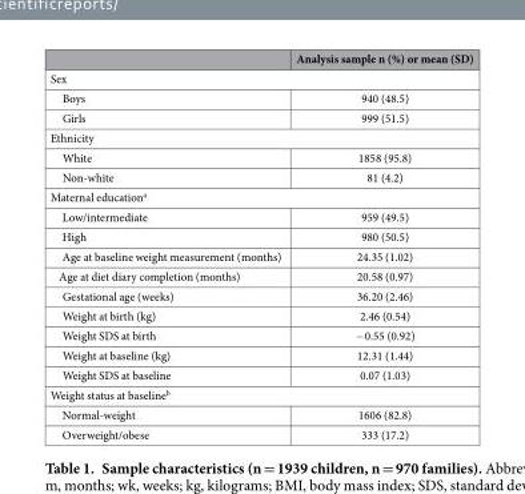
<table><thead><tr><td></td><td>Analysis sample n (%) or mean (SD)</td></tr></thead><tbody><tr><td colspan="2">Sex</td></tr><tr><td>Boys</td><td>940 (48.5)</td></tr><tr><td>Girls</td><td>999 (51.5)</td></tr><tr><td colspan="2">Ethnicity</td></tr><tr><td>White</td><td>1858 (95.8)</td></tr><tr><td>Non-white</td><td>81 (4.2)</td></tr><tr><td colspan="2">Maternal education<sup>a</sup></td></tr><tr><td>Low/intermediate</td><td>959 (49.5)</td></tr><tr><td>High</td><td>980 (50.5)</td></tr><tr><td>Age at baseline weight measurement (months)</td><td>24.35 (1.02)</td></tr><tr><td>Age at diet diary completion (months)</td><td>20.58 (0.97)</td></tr><tr><td>Gestational age (weeks)</td><td>36.20 (2.46)</td></tr><tr><td>Weight at birth (kg)</td><td>2.46 (0.54)</td></tr><tr><td>Weight SDS at birth</td><td>− 0.55 (0.92)</td></tr><tr><td>Weight at baseline (kg)</td><td>12.31 (1.44)</td></tr><tr><td>Weight SDS at baseline</td><td>0.07 (1.03)</td></tr><tr><td colspan="2">Weight status at baseline<sup>b</sup></td></tr><tr><td>Normal-weight</td><td>1606 (82.8)</td></tr><tr><td>Overweight/obese</td><td>333 (17.2)</td></tr></tbody></table>